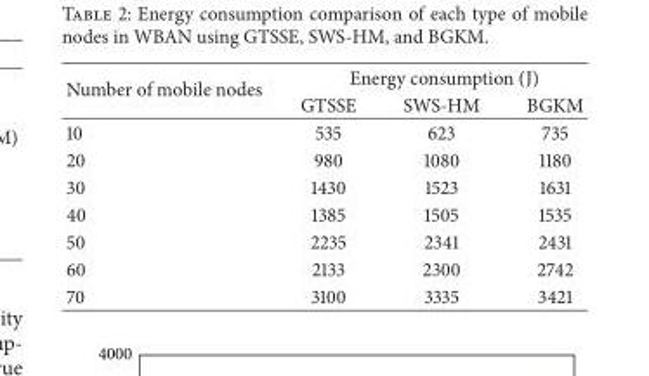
<table><thead><tr><td rowspan="2">Number of mobile nodes</td><td colspan="3">Energy consumption (J)</td></tr><tr><td>GTSSE</td><td>SWS-HM</td><td>BGKM</td></tr></thead><tbody><tr><td>10</td><td>535</td><td>623</td><td>735</td></tr><tr><td>20</td><td>980</td><td>1080</td><td>1180</td></tr><tr><td>30</td><td>1430</td><td>1523</td><td>1631</td></tr><tr><td>40</td><td>1385</td><td>1505</td><td>1535</td></tr><tr><td>50</td><td>2235</td><td>2341</td><td>2431</td></tr><tr><td>60</td><td>2133</td><td>2300</td><td>2742</td></tr><tr><td>70</td><td>3100</td><td>3335</td><td>3421</td></tr></tbody></table>